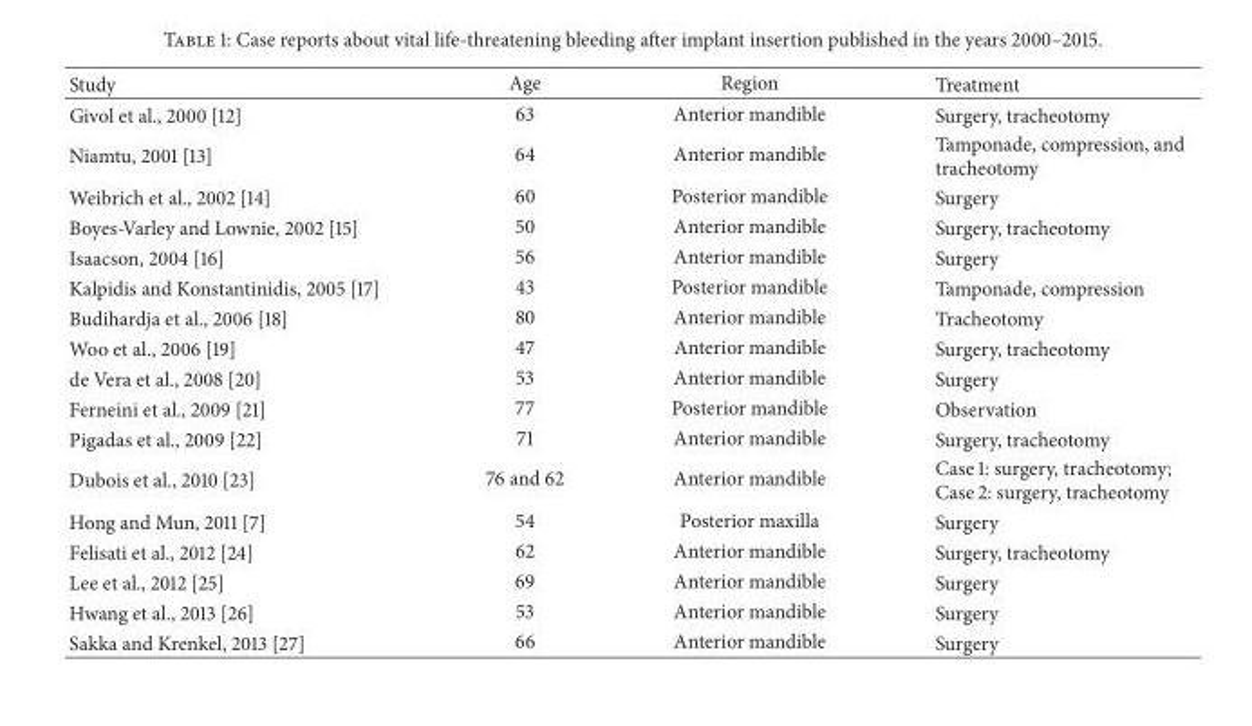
<table><thead><tr><td>Study</td><td>Age</td><td>Region</td><td>Treatment</td></tr></thead><tbody><tr><td>Givol et al., 2000 [12]</td><td>63</td><td>Anterior mandible</td><td>Surgery, tracheotomy</td></tr><tr><td>Niamtu, 2001 [13]</td><td>64</td><td>Anterior mandible</td><td>Tamponade, compression, and tracheotomy</td></tr><tr><td>Weibrich et al., 2002 [14]</td><td>60</td><td>Posterior mandible</td><td>Surgery</td></tr><tr><td>Boyes-Varley and Lownie, 2002 [15]</td><td>50</td><td>Anterior mandible</td><td>Surgery, tracheotomy</td></tr><tr><td>Isaacson, 2004 [16]</td><td>56</td><td>Anterior mandible</td><td>Surgery</td></tr><tr><td>Kalpidis and Konstantinidis, 2005 [17]</td><td>43</td><td>Posterior mandible</td><td>Tamponade, compression</td></tr><tr><td>Budihardja et al., 2006 [18]</td><td>80</td><td>Anterior mandible</td><td>Tracheotomy</td></tr><tr><td>Woo et al., 2006 [19]</td><td>47</td><td>Anterior mandible</td><td>Surgery, tracheotomy</td></tr><tr><td>de Vera et al., 2008 [20]</td><td>53</td><td>Anterior mandible</td><td>Surgery</td></tr><tr><td>Ferneini et al., 2009 [21]</td><td>77</td><td>Posterior mandible</td><td>Observation</td></tr><tr><td>Pigadas et al., 2009 [22]</td><td>71</td><td>Anterior mandible</td><td>Surgery, tracheotomy</td></tr><tr><td>Dubois et al., 2010 [23]</td><td>76 and 62</td><td>Anterior mandible</td><td>Case 1: surgery, tracheotomy; Case 2: surgery, tracheotomy</td></tr><tr><td>Hong and Mun, 2011 [7]</td><td>54</td><td>Posterior maxilla</td><td>Surgery</td></tr><tr><td>Felisati et al., 2012 [24]</td><td>62</td><td>Anterior mandible</td><td>Surgery, tracheotomy</td></tr><tr><td>Lee et al., 2012 [25]</td><td>69</td><td>Anterior mandible</td><td>Surgery</td></tr><tr><td>Hwang et al., 2013 [26]</td><td>53</td><td>Anterior mandible</td><td>Surgery</td></tr><tr><td>Sakka and Krenkel, 2013 [27]</td><td>66</td><td>Anterior mandible</td><td>Surgery</td></tr></tbody></table>